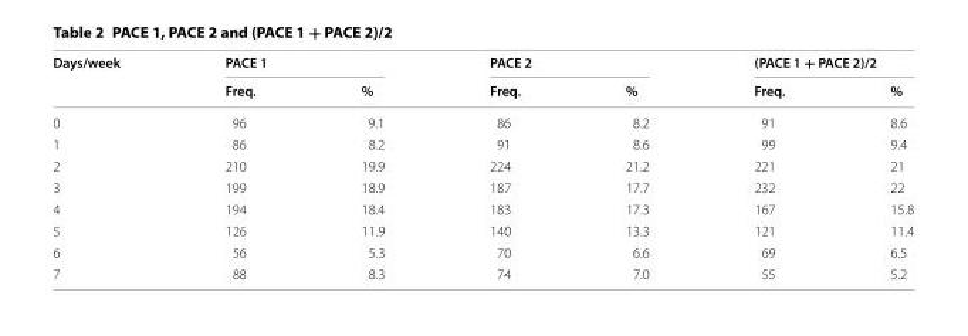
<table><thead><tr><td rowspan="2">Days/week</td><td colspan="2">PACE 1</td><td colspan="2">PACE 2</td><td colspan="2">(PACE 1 + PACE 2)/2</td></tr><tr><td>Freq.</td><td>%</td><td>Freq.</td><td>%</td><td>Freq.</td><td>%</td></tr></thead><tbody><tr><td>0</td><td>96</td><td>9.1</td><td>86</td><td>8.2</td><td>91</td><td>8.6</td></tr><tr><td>1</td><td>86</td><td>8.2</td><td>91</td><td>8.6</td><td>99</td><td>9.4</td></tr><tr><td>2</td><td>210</td><td>19.9</td><td>224</td><td>21.2</td><td>221</td><td>21</td></tr><tr><td>3</td><td>199</td><td>18.9</td><td>187</td><td>17.7</td><td>232</td><td>22</td></tr><tr><td>4</td><td>194</td><td>18.4</td><td>183</td><td>17.3</td><td>167</td><td>15.8</td></tr><tr><td>5</td><td>126</td><td>11.9</td><td>140</td><td>13.3</td><td>121</td><td>11.4</td></tr><tr><td>6</td><td>56</td><td>5.3</td><td>70</td><td>6.6</td><td>69</td><td>6.5</td></tr><tr><td>7</td><td>88</td><td>8.3</td><td>74</td><td>7.0</td><td>55</td><td>5.2</td></tr></tbody></table>